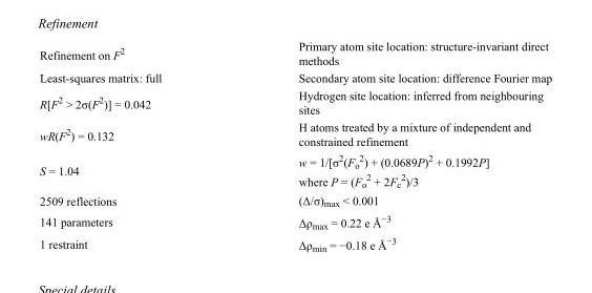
<table><tbody><tr><td>Refinement on F<sup>2</sup></td><td>Primary atom site location: structure-invariant direct methods</td></tr><tr><td>Least-squares matrix: full</td><td>Secondary atom site location: difference Fourier map</td></tr><tr><td>R[F<sup>2</sup> &gt; 2σ(F<sup>2</sup>)] = 0.042</td><td>Hydrogen site location: inferred from neighbouring sites</td></tr><tr><td>wR(F<sup>2</sup>) = 0.132</td><td>H atoms treated by a mixture of independent and constrained refinement</td></tr><tr><td>S = 1.04</td><td>w = 1/[σ<sup>2</sup>(F<sub>o</sub> <sup>2</sup>) + (0.0689P)<sup>2</sup> + 0.1992P] where P = (F<sub>o</sub> <sup>2</sup> + 2F<sub>c</sub> <sup>2</sup>)/3</td></tr><tr><td>2509 reflections</td><td>(Δ/σ)<sub>max</sub> &lt; 0.001</td></tr><tr><td>141 parameters</td><td>Δρ<sub>max</sub> = 0.22 e Å<sup>−3</sup></td></tr><tr><td>1 restraint</td><td>Δρ<sub>min</sub> = −0.18 e Å<sup>−3</sup></td></tr></tbody></table>